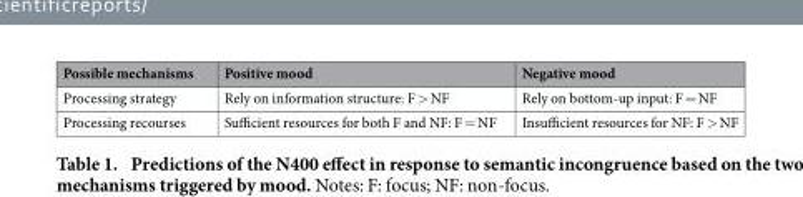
<table><thead><tr><td>Possible mechanisms</td><td>Positive mood</td><td>Negative mood</td></tr></thead><tbody><tr><td>Processing strategy</td><td>Rely on information structure: F &gt; NF</td><td>Rely on bottom-up input: F = NF</td></tr><tr><td>Processing recourses</td><td>Sufficient resources for both F and NF: F = NF</td><td>Insufficient resources for NF: F &gt; NF</td></tr></tbody></table>